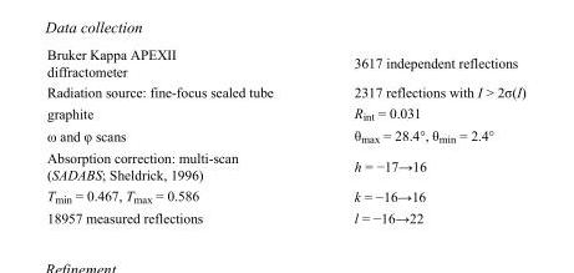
<table><tbody><tr><td>Bruker Kappa APEXII diffractometer</td><td>3617 independent reflections</td></tr><tr><td>Radiation source: fine-focus sealed tube</td><td>2317 reflections with I &gt; 2σ(I)</td></tr><tr><td>graphite</td><td>R<sub>int</sub> = 0.031</td></tr><tr><td>ω and φ scans</td><td>θ<sub>max</sub> = 28.4°, θ<sub>min</sub> = 2.4°</td></tr><tr><td>Absorption correction: multi-scan (SADABS; Sheldrick, 1996)</td><td>h = −17→16</td></tr><tr><td>T<sub>min</sub> = 0.467, T<sub>max</sub> = 0.586</td><td>k = −16→16</td></tr><tr><td>18957 measured reflections</td><td>l = −16→22</td></tr></tbody></table>